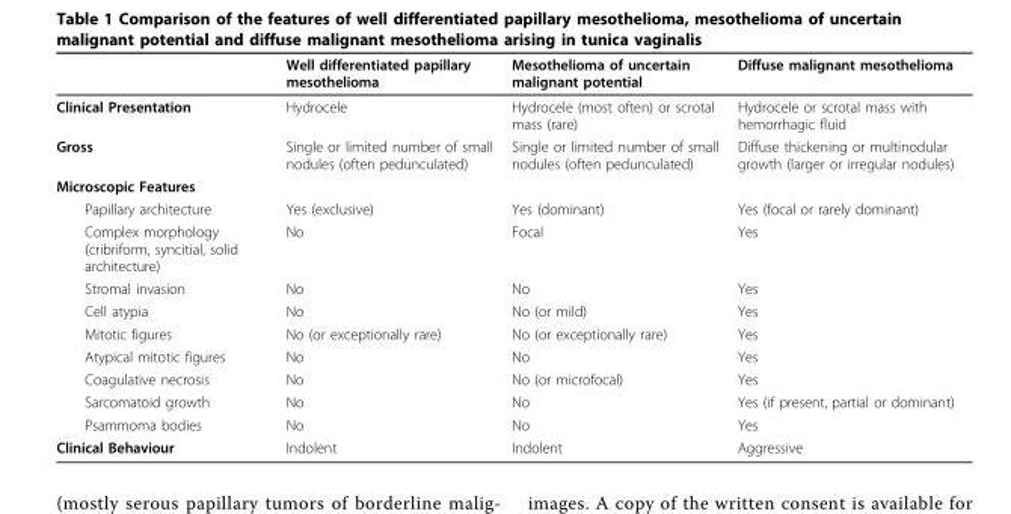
<table><thead><tr><td></td><td>Well differentiated papillary mesothelioma</td><td>Mesothelioma of uncertain malignant potential</td><td>Diffuse malignant mesothelioma</td></tr></thead><tbody><tr><td>Clinical Presentation</td><td>Hydrocele</td><td>Hydrocele (most often) or scrotal mass (rare)</td><td>Hydrocele or scrotal mass with hemorrhagic fluid</td></tr><tr><td>Gross</td><td>Single or limited number of small nodules (often pedunculated)</td><td>Single or limited number of small nodules (often pedunculated)</td><td>Diffuse thickening or multinodular growth (larger or irregular nodules)</td></tr><tr><td colspan="4">Microscopic Features</td></tr><tr><td>Papillary architecture</td><td>Yes (exclusive)</td><td>Yes (dominant)</td><td>Yes (focal or rarely dominant)</td></tr><tr><td>Complex morphology (cribriform, syncitial, solid architecture)</td><td>No</td><td>Focal</td><td>Yes</td></tr><tr><td>Stromal invasion</td><td>No</td><td>No</td><td>Yes</td></tr><tr><td>Cell atypia</td><td>No</td><td>No (or mild)</td><td>Yes</td></tr><tr><td>Mitotic figures</td><td>No (or exceptionally rare)</td><td>No (or exceptionally rare)</td><td>Yes</td></tr><tr><td>Atypical mitotic figures</td><td>No</td><td>No</td><td>Yes</td></tr><tr><td>Coagulative necrosis</td><td>No</td><td>No (or microfocal)</td><td>Yes</td></tr><tr><td>Sarcomatoid growth</td><td>No</td><td>No</td><td>Yes (if present, partial or dominant)</td></tr><tr><td>Psammoma bodies</td><td>No</td><td>No</td><td>Yes</td></tr><tr><td>Clinical Behaviour</td><td>Indolent</td><td>Indolent</td><td>Aggressive</td></tr></tbody></table>